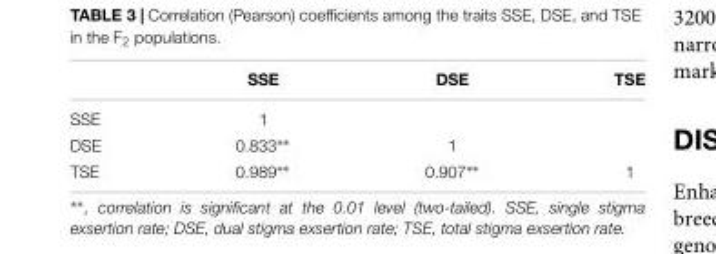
<table><thead><tr><td></td><td>SSE</td><td>DSE</td><td>TSE</td></tr></thead><tbody><tr><td>SSE</td><td>1</td><td></td><td></td></tr><tr><td>DSE</td><td>0.833∗∗</td><td>1</td><td></td></tr><tr><td>TSE</td><td>0.989∗∗</td><td>0.907∗∗</td><td>1</td></tr></tbody></table>